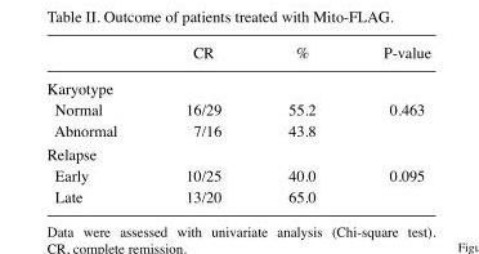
<table><thead><tr><td></td><td>CR</td><td>%</td><td>P-value</td></tr></thead><tbody><tr><td colspan="4">Karyotype</td></tr><tr><td>Normal</td><td>16/29</td><td>55.2</td><td>0.463</td></tr><tr><td>Abnormal</td><td>7/16</td><td>43.8</td><td></td></tr><tr><td colspan="4">Relapse</td></tr><tr><td>Early</td><td>10/25</td><td>40.0</td><td>0.095</td></tr><tr><td>Late</td><td>13/20</td><td>65.0</td><td></td></tr></tbody></table>